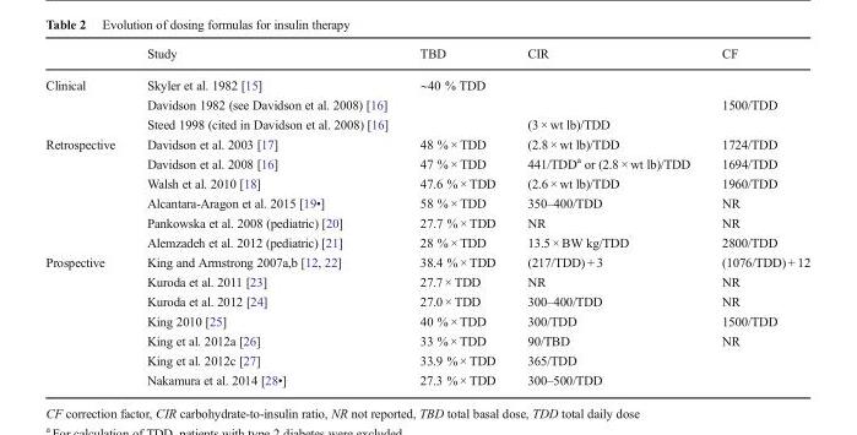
<table><thead><tr><td></td><td>Study</td><td>TBD</td><td>CIR</td><td>CF</td></tr></thead><tbody><tr><td rowspan="3">Clinical</td><td>Skyler et al. 1982 [15]</td><td>∼40 % TDD</td><td></td><td></td></tr><tr><td>Davidson 1982 (see Davidson et al. 2008) [16]</td><td></td><td></td><td>1500/TDD</td></tr><tr><td>Steed 1998 (cited in Davidson et al. 2008) [16]</td><td></td><td>(3 × wt lb)/TDD</td><td></td></tr><tr><td rowspan="6">Retrospective</td><td>Davidson et al. 2003 [17]</td><td>48 % × TDD</td><td>(2.8 × wt lb)/TDD</td><td>1724/TDD</td></tr><tr><td>Davidson et al. 2008 [16]</td><td>47 % × TDD</td><td>441/TDD<sup>a</sup> or (2.8 × wt lb)/TDD</td><td>1694/TDD</td></tr><tr><td>Walsh et al. 2010 [18]</td><td>47.6 % × TDD</td><td>(2.6 × wt lb)/TDD</td><td>1960/TDD</td></tr><tr><td>Alcantara-Aragon et al. 2015 [19•]</td><td>58 % × TDD</td><td>350–400/TDD</td><td>NR</td></tr><tr><td>Pankowska et al. 2008 (pediatric) [20]</td><td>27.7 % × TDD</td><td>NR</td><td>NR</td></tr><tr><td>Alemzadeh et al. 2012 (pediatric) [21]</td><td>28 % × TDD</td><td>13.5 × BW kg/TDD</td><td>2800/TDD</td></tr><tr><td rowspan="7">Prospective</td><td>King and Armstrong 2007a,b [12, 22]</td><td>38.4 % × TDD</td><td>(217/TDD) + 3</td><td>(1076/TDD) + 12</td></tr><tr><td>Kuroda et al. 2011 [23]</td><td>27.7 × TDD</td><td>NR</td><td>NR</td></tr><tr><td>Kuroda et al. 2012 [24]</td><td>27.0 × TDD</td><td>300–400/TDD</td><td>NR</td></tr><tr><td>King 2010 [25]</td><td>40 % × TDD</td><td>300/TDD</td><td>1500/TDD</td></tr><tr><td>King et al. 2012a [26]</td><td>33 % × TDD</td><td>90/TBD</td><td>NR</td></tr><tr><td>King et al. 2012c [27]</td><td>33.9 % × TDD</td><td>365/TDD</td><td></td></tr><tr><td>Nakamura et al. 2014 [28•]</td><td>27.3 % × TDD</td><td>300–500/TDD</td><td></td></tr></tbody></table>